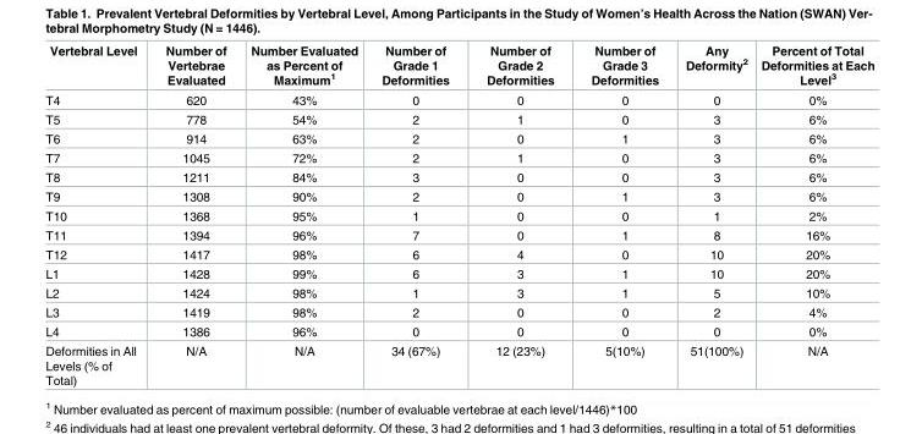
<table><thead><tr><td>Vertebral Level</td><td>Number of Vertebrae Evaluated</td><td>Number Evaluated as Percent of Maximum<sup>1</sup></td><td>Number of Grade 1 Deformities</td><td>Number of Grade 2 Deformities</td><td>Number of Grade 3 Deformities</td><td>Any Deformity<sup>2</sup></td><td>Percent of Total Deformities at Each Level<sup>3</sup></td></tr></thead><tbody><tr><td>T4</td><td>620</td><td>43%</td><td>0</td><td>0</td><td>0</td><td>0</td><td>0%</td></tr><tr><td>T5</td><td>778</td><td>54%</td><td>2</td><td>1</td><td>0</td><td>3</td><td>6%</td></tr><tr><td>T6</td><td>914</td><td>63%</td><td>2</td><td>0</td><td>1</td><td>3</td><td>6%</td></tr><tr><td>T7</td><td>1045</td><td>72%</td><td>2</td><td>1</td><td>0</td><td>3</td><td>6%</td></tr><tr><td>T8</td><td>1211</td><td>84%</td><td>3</td><td>0</td><td>0</td><td>3</td><td>6%</td></tr><tr><td>T9</td><td>1308</td><td>90%</td><td>2</td><td>0</td><td>1</td><td>3</td><td>6%</td></tr><tr><td>T10</td><td>1368</td><td>95%</td><td>1</td><td>0</td><td>0</td><td>1</td><td>2%</td></tr><tr><td>T11</td><td>1394</td><td>96%</td><td>7</td><td>0</td><td>1</td><td>8</td><td>16%</td></tr><tr><td>T12</td><td>1417</td><td>98%</td><td>6</td><td>4</td><td>0</td><td>10</td><td>20%</td></tr><tr><td>L1</td><td>1428</td><td>99%</td><td>6</td><td>3</td><td>1</td><td>10</td><td>20%</td></tr><tr><td>L2</td><td>1424</td><td>98%</td><td>1</td><td>3</td><td>1</td><td>5</td><td>10%</td></tr><tr><td>L3</td><td>1419</td><td>98%</td><td>2</td><td>0</td><td>0</td><td>2</td><td>4%</td></tr><tr><td>L4</td><td>1386</td><td>96%</td><td>0</td><td>0</td><td>0</td><td>0</td><td>0%</td></tr><tr><td>Deformities in All Levels (% of Total)</td><td>N/A</td><td>N/A</td><td>34 (67%)</td><td>12 (23%)</td><td>5(10%)</td><td>51(100%)</td><td>N/A</td></tr></tbody></table>